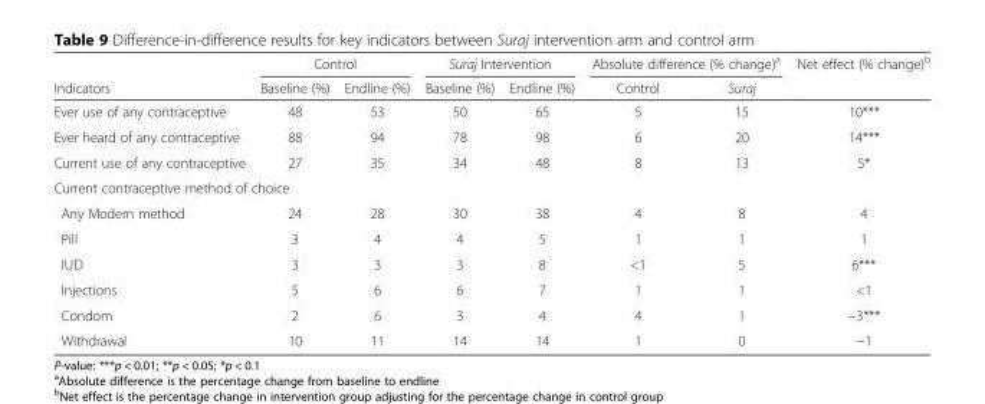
<table><thead><tr><td rowspan="2">Indicators</td><td colspan="2">Control</td><td colspan="2">Suraj Intervention</td><td colspan="2">Absolute difference (% change)<sup>a</sup></td><td rowspan="2">Net effect (% change)<sup>b</sup></td></tr><tr><td>Baseline (%)</td><td>Endline (%)</td><td>Baseline (%)</td><td>Endline (%)</td><td>Control</td><td>Suraj</td></tr></thead><tbody><tr><td>Ever use of any contraceptive</td><td>48</td><td>53</td><td>50</td><td>65</td><td>5</td><td>15</td><td>10***</td></tr><tr><td>Ever heard of any contraceptive</td><td>88</td><td>94</td><td>78</td><td>98</td><td>6</td><td>20</td><td>14***</td></tr><tr><td>Current use of any contraceptive</td><td>27</td><td>35</td><td>34</td><td>48</td><td>8</td><td>13</td><td>5*</td></tr><tr><td colspan="8">Current contraceptive method of choice</td></tr><tr><td>Any Modern method</td><td>24</td><td>28</td><td>30</td><td>38</td><td>4</td><td>8</td><td>4</td></tr><tr><td>Pill</td><td>3</td><td>4</td><td>4</td><td>5</td><td>1</td><td>1</td><td>1</td></tr><tr><td>IUD</td><td>3</td><td>3</td><td>3</td><td>8</td><td>&lt;1</td><td>5</td><td>6***</td></tr><tr><td>Injections</td><td>5</td><td>6</td><td>6</td><td>7</td><td>1</td><td>1</td><td>&lt;1</td></tr><tr><td>Condom</td><td>2</td><td>6</td><td>3</td><td>4</td><td>4</td><td>1</td><td>−3***</td></tr><tr><td>Withdrawal</td><td>10</td><td>11</td><td>14</td><td>14</td><td>1</td><td>0</td><td>−1</td></tr></tbody></table>